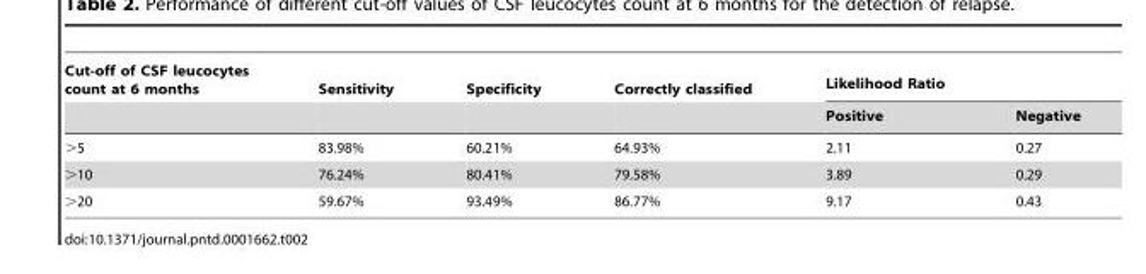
<table><thead><tr><td rowspan="2">Cut-off of CSF leucocytes count at 6 months</td><td rowspan="2">Sensitivity</td><td rowspan="2">Specificity</td><td rowspan="2">Correctly classified</td><td colspan="2">Likelihood Ratio</td></tr><tr><td>Positive</td><td>Negative</td></tr></thead><tbody><tr><td>&gt;5</td><td>83.98%</td><td>60.21%</td><td>64.93%</td><td>2.11</td><td>0.27</td></tr><tr><td>&gt;10</td><td>76.24%</td><td>80.41%</td><td>79.58%</td><td>3.89</td><td>0.29</td></tr><tr><td>&gt;20</td><td>59.67%</td><td>93.49%</td><td>86.77%</td><td>9.17</td><td>0.43</td></tr></tbody></table>